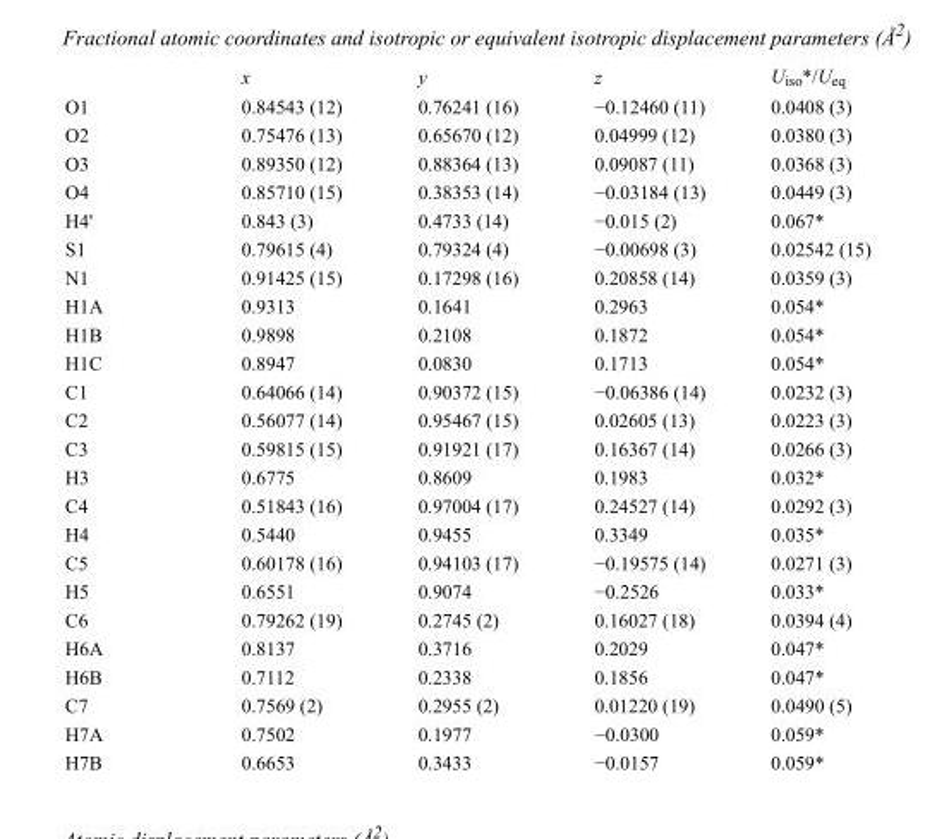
<table><thead><tr><td></td><td>x</td><td>y</td><td>z</td><td>U<sub>iso</sub>*/U<sub>eq</sub></td></tr></thead><tbody><tr><td>O1</td><td>0.84543 (12)</td><td>0.76241 (16)</td><td>−0.12460 (11)</td><td>0.0408 (3)</td></tr><tr><td>O2</td><td>0.75476 (13)</td><td>0.65670 (12)</td><td>0.04999 (12)</td><td>0.0380 (3)</td></tr><tr><td>O3</td><td>0.89350 (12)</td><td>0.88364 (13)</td><td>0.09087 (11)</td><td>0.0368 (3)</td></tr><tr><td>O4</td><td>0.85710 (15)</td><td>0.38353 (14)</td><td>−0.03184 (13)</td><td>0.0449 (3)</td></tr><tr><td>H4&#x27;</td><td>0.843 (3)</td><td>0.4733 (14)</td><td>−0.015 (2)</td><td>0.067*</td></tr><tr><td>S1</td><td>0.79615 (4)</td><td>0.79324 (4)</td><td>−0.00698 (3)</td><td>0.02542 (15)</td></tr><tr><td>N1</td><td>0.91425 (15)</td><td>0.17298 (16)</td><td>0.20858 (14)</td><td>0.0359 (3)</td></tr><tr><td>H1A</td><td>0.9313</td><td>0.1641</td><td>0.2963</td><td>0.054*</td></tr><tr><td>H1B</td><td>0.9898</td><td>0.2108</td><td>0.1872</td><td>0.054*</td></tr><tr><td>H1C</td><td>0.8947</td><td>0.0830</td><td>0.1713</td><td>0.054*</td></tr><tr><td>C1</td><td>0.64066 (14)</td><td>0.90372 (15)</td><td>−0.06386 (14)</td><td>0.0232 (3)</td></tr><tr><td>C2</td><td>0.56077 (14)</td><td>0.95467 (15)</td><td>0.02605 (13)</td><td>0.0223 (3)</td></tr><tr><td>C3</td><td>0.59815 (15)</td><td>0.91921 (17)</td><td>0.16367 (14)</td><td>0.0266 (3)</td></tr><tr><td>H3</td><td>0.6775</td><td>0.8609</td><td>0.1983</td><td>0.032*</td></tr><tr><td>C4</td><td>0.51843 (16)</td><td>0.97004 (17)</td><td>0.24527 (14)</td><td>0.0292 (3)</td></tr><tr><td>H4</td><td>0.5440</td><td>0.9455</td><td>0.3349</td><td>0.035*</td></tr><tr><td>C5</td><td>0.60178 (16)</td><td>0.94103 (17)</td><td>−0.19575 (14)</td><td>0.0271 (3)</td></tr><tr><td>H5</td><td>0.6551</td><td>0.9074</td><td>−0.2526</td><td>0.033*</td></tr><tr><td>C6</td><td>0.79262 (19)</td><td>0.2745 (2)</td><td>0.16027 (18)</td><td>0.0394 (4)</td></tr><tr><td>H6A</td><td>0.8137</td><td>0.3716</td><td>0.2029</td><td>0.047*</td></tr><tr><td>H6B</td><td>0.7112</td><td>0.2338</td><td>0.1856</td><td>0.047*</td></tr><tr><td>C7</td><td>0.7569 (2)</td><td>0.2955 (2)</td><td>0.01220 (19)</td><td>0.0490 (5)</td></tr><tr><td>H7A</td><td>0.7502</td><td>0.1977</td><td>−0.0300</td><td>0.059*</td></tr><tr><td>H7B</td><td>0.6653</td><td>0.3433</td><td>−0.0157</td><td>0.059*</td></tr></tbody></table>